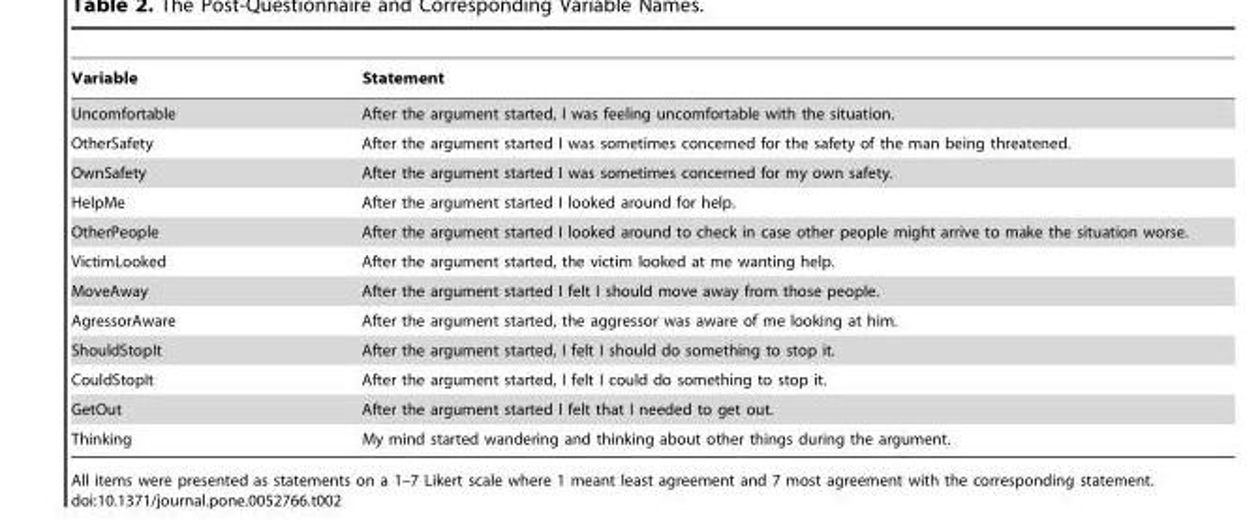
<table><thead><tr><td>Variable</td><td>Statement</td></tr></thead><tbody><tr><td>Uncomfortable</td><td>After the argument started, I was feeling uncomfortable with the situation.</td></tr><tr><td>OtherSafety</td><td>After the argument started I was sometimes concerned for the safety of the man being threatened.</td></tr><tr><td>OwnSafety</td><td>After the argument started I was sometimes concerned for my own safety.</td></tr><tr><td>HelpMe</td><td>After the argument started I looked around for help.</td></tr><tr><td>OtherPeople</td><td>After the argument started I looked around to check in case other people might arrive to make the situation worse.</td></tr><tr><td>VictimLooked</td><td>After the argument started, the victim looked at me wanting help.</td></tr><tr><td>MoveAway</td><td>After the argument started I felt I should move away from those people.</td></tr><tr><td>AgressorAware</td><td>After the argument started, the aggressor was aware of me looking at him.</td></tr><tr><td>ShouldStopIt</td><td>After the argument started, I felt I should do something to stop it.</td></tr><tr><td>CouldStopIt</td><td>After the argument started, I felt I could do something to stop it.</td></tr><tr><td>GetOut</td><td>After the argument started I felt that I needed to get out.</td></tr><tr><td>Thinking</td><td>My mind started wandering and thinking about other things during the argument.</td></tr></tbody></table>